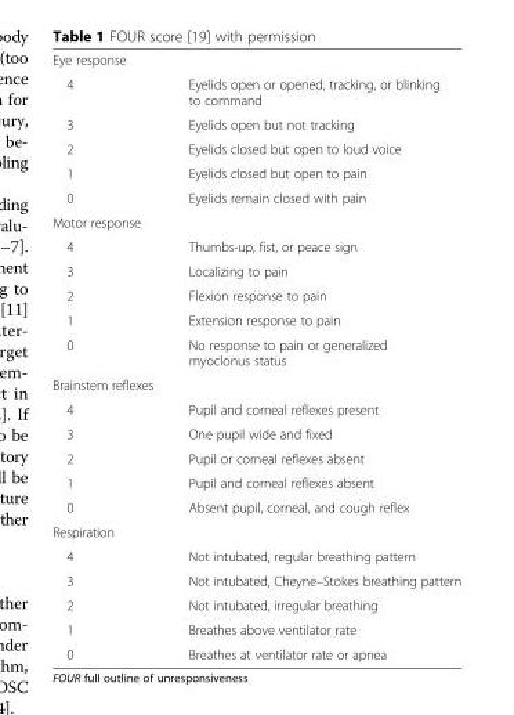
<table><tbody><tr><td colspan="2">Eye response</td></tr><tr><td>4</td><td>Eyelids open or opened, tracking, or blinking to command</td></tr><tr><td>3</td><td>Eyelids open but not tracking</td></tr><tr><td>2</td><td>Eyelids closed but open to loud voice</td></tr><tr><td>1</td><td>Eyelids closed but open to pain</td></tr><tr><td>0</td><td>Eyelids remain closed with pain</td></tr><tr><td colspan="2">Motor response</td></tr><tr><td>4</td><td>Thumbs-up, fist, or peace sign</td></tr><tr><td>3</td><td>Localizing to pain</td></tr><tr><td>2</td><td>Flexion response to pain</td></tr><tr><td>1</td><td>Extension response to pain</td></tr><tr><td>0</td><td>No response to pain or generalized myoclonus status</td></tr><tr><td colspan="2">Brainstem reflexes</td></tr><tr><td>4</td><td>Pupil and corneal reflexes present</td></tr><tr><td>3</td><td>One pupil wide and fixed</td></tr><tr><td>2</td><td>Pupil or corneal reflexes absent</td></tr><tr><td>1</td><td>Pupil and corneal reflexes absent</td></tr><tr><td>0</td><td>Absent pupil, corneal, and cough reflex</td></tr><tr><td colspan="2">Respiration</td></tr><tr><td>4</td><td>Not intubated, regular breathing pattern</td></tr><tr><td>3</td><td>Not intubated, Cheyne–Stokes breathing pattern</td></tr><tr><td>2</td><td>Not intubated, irregular breathing</td></tr><tr><td>1</td><td>Breathes above ventilator rate</td></tr><tr><td>0</td><td>Breathes at ventilator rate or apnea</td></tr></tbody></table>